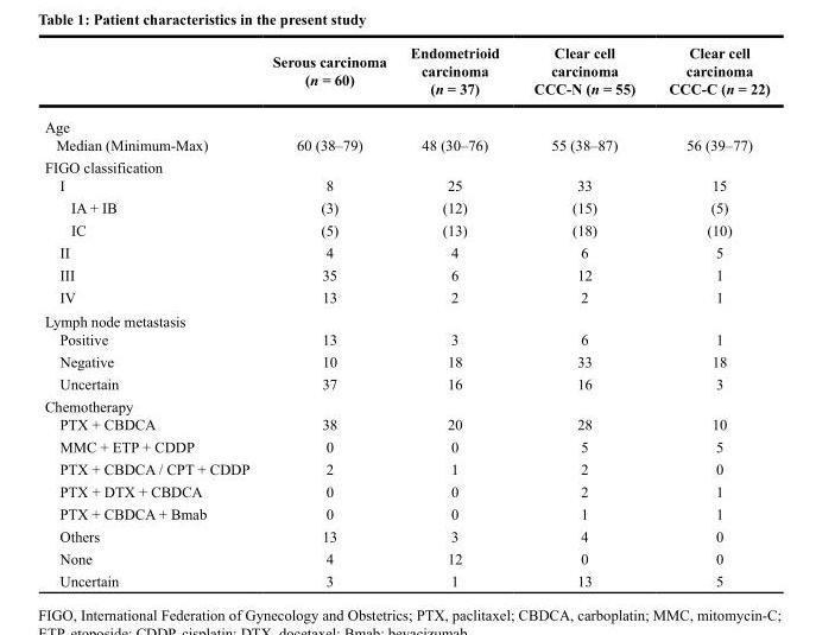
<table><thead><tr><td></td><td>Serous carcinoma (n = 60)</td><td>Endometrioid carcinoma (n = 37)</td><td>Clear cell carcinoma CCC-N (n = 55)</td><td>Clear cell carcinoma CCC-C (n = 22)</td></tr></thead><tbody><tr><td colspan="5">Age</td></tr><tr><td>Median (Minimum-Max)</td><td>60 (38–79)</td><td>48 (30–76)</td><td>55 (38–87)</td><td>56 (39–77)</td></tr><tr><td colspan="5">FIGO classification</td></tr><tr><td>I</td><td>8</td><td>25</td><td>33</td><td>15</td></tr><tr><td>IA + IB</td><td>(3)</td><td>(12)</td><td>(15)</td><td>(5)</td></tr><tr><td>IC</td><td>(5)</td><td>(13)</td><td>(18)</td><td>(10)</td></tr><tr><td>II</td><td>4</td><td>4</td><td>6</td><td>5</td></tr><tr><td>III</td><td>35</td><td>6</td><td>12</td><td>1</td></tr><tr><td>IV</td><td>13</td><td>2</td><td>2</td><td>1</td></tr><tr><td colspan="5">Lymph node metastasis</td></tr><tr><td>Positive</td><td>13</td><td>3</td><td>6</td><td>1</td></tr><tr><td>Negative</td><td>10</td><td>18</td><td>33</td><td>18</td></tr><tr><td>Uncertain</td><td>37</td><td>16</td><td>16</td><td>3</td></tr><tr><td colspan="5">Chemotherapy</td></tr><tr><td>PTX + CBDCA</td><td>38</td><td>20</td><td>28</td><td>10</td></tr><tr><td>MMC + ETP + CDDP</td><td>0</td><td>0</td><td>5</td><td>5</td></tr><tr><td>PTX + CBDCA / CPT + CDDP</td><td>2</td><td>1</td><td>2</td><td>0</td></tr><tr><td>PTX + DTX + CBDCA</td><td>0</td><td>0</td><td>2</td><td>1</td></tr><tr><td>PTX + CBDCA + Bmab</td><td>0</td><td>0</td><td>1</td><td>1</td></tr><tr><td>Others</td><td>13</td><td>3</td><td>4</td><td>0</td></tr><tr><td>None</td><td>4</td><td>12</td><td>0</td><td>0</td></tr><tr><td>Uncertain</td><td>3</td><td>1</td><td>13</td><td>5</td></tr></tbody></table>